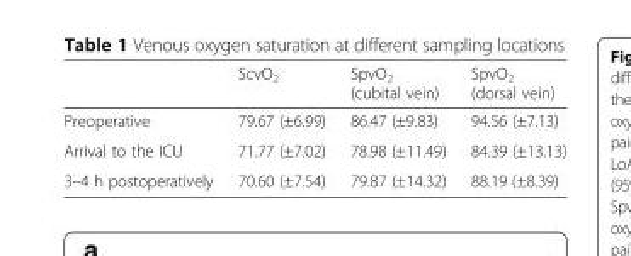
<table><thead><tr><td></td><td>ScvO<sub>2</sub></td><td>SpvO<sub>2</sub> (cubital vein)</td><td>SpvO<sub>2</sub> (dorsal vein)</td></tr></thead><tbody><tr><td>Preoperative</td><td>79.67 (±6.99)</td><td>86.47 (±9.83)</td><td>94.56 (±7.13)</td></tr><tr><td>Arrival to the ICU</td><td>71.77 (±7.02)</td><td>78.98 (±11.49)</td><td>84.39 (±13.13)</td></tr><tr><td>3–4 h postoperatively</td><td>70.60 (±7.54)</td><td>79.87 (±14.32)</td><td>88.19 (±8.39)</td></tr></tbody></table>